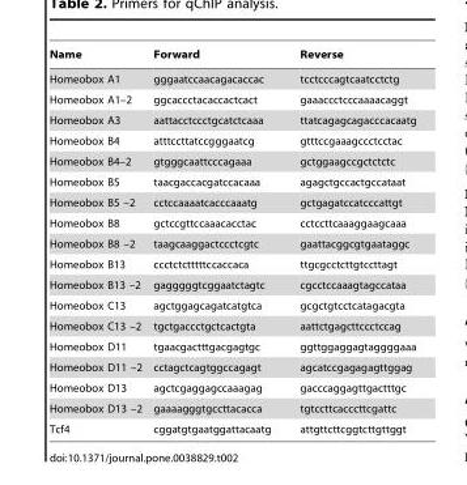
<table><thead><tr><td>Name</td><td>Forward</td><td>Reverse</td></tr></thead><tbody><tr><td>Homeobox A1</td><td>gggaatccaacagacaccac</td><td>tcctcccagtcaatcctctg</td></tr><tr><td>Homeobox A1–2</td><td>ggcaccctacaccactcact</td><td>gaaaccctcccaaaacaggt</td></tr><tr><td>Homeobox A3</td><td>aattacctccctgcatctcaaa</td><td>ttatcagagcagacccacaatg</td></tr><tr><td>Homeobox B4</td><td>atttccttatccgggaatcg</td><td>gtttccgaaagccctcctac</td></tr><tr><td>Homeobox B4–2</td><td>gtgggcaattcccagaaa</td><td>gctggaagccgctctctc</td></tr><tr><td>Homeobox B5</td><td>taacgaccacgatccacaaa</td><td>agagctgccactgccataat</td></tr><tr><td>Homeobox B5 –2</td><td>cctccaaaatcacccaaatg</td><td>gctgagatccatcccattgt</td></tr><tr><td>Homeobox B8</td><td>gctccgttccaaacacctac</td><td>cctccttcaaaggaagcaaa</td></tr><tr><td>Homeobox B8 –2</td><td>taagcaaggactccctcgtc</td><td>gaattacggcgtgaataggc</td></tr><tr><td>Homeobox B13</td><td>ccctctctttttccaccaca</td><td>ttgcgcctcttgtccttagt</td></tr><tr><td>Homeobox B13 –2</td><td>gagggggtcggaatctagtc</td><td>cgcctccaaagtagccataa</td></tr><tr><td>Homeobox C13</td><td>agctggagcagatcatgtca</td><td>gcgctgtcctcatagacgta</td></tr><tr><td>Homeobox C13 –2</td><td>tgctgaccctgctcactgta</td><td>aattctgagcttccctccag</td></tr><tr><td>Homeobox D11</td><td>tgaacgactttgacgagtgc</td><td>ggttggaggagtaggggaaa</td></tr><tr><td>Homeobox D11 –2</td><td>cctagctcagtggccagagt</td><td>agcatccgagagagttggag</td></tr><tr><td>Homeobox D13</td><td>agctcgaggagccaaagag</td><td>gacccaggagttgactttgc</td></tr><tr><td>Homeobox D13 –2</td><td>gaaaagggtgccttacacca</td><td>tgtccttcacccttcgattc</td></tr><tr><td>Tcf4</td><td>cggatgtgaatggattacaatg</td><td>attgttcttcggtcttgttggt</td></tr></tbody></table>